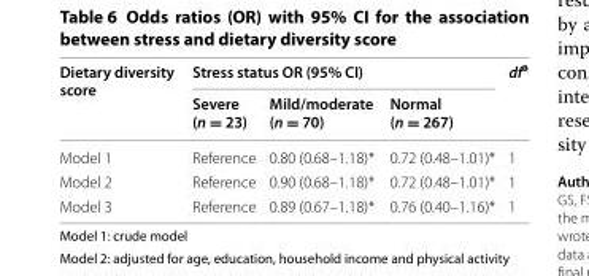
<table><thead><tr><td rowspan="2">Dietary diversity score</td><td colspan="3">Stress status OR (95% CI)</td><td rowspan="2">df<sup>a</sup></td></tr><tr><td>Severe (n = 23)</td><td>Mild/moderate (n = 70)</td><td>Normal (n = 267)</td></tr></thead><tbody><tr><td>Model 1</td><td>Reference</td><td>0.80 (0.68–1.18)*</td><td>0.72 (0.48–1.01)*</td><td>1</td></tr><tr><td>Model 2</td><td>Reference</td><td>0.90 (0.68–1.18)*</td><td>0.72 (0.48–1.01)*</td><td>1</td></tr><tr><td>Model 3</td><td>Reference</td><td>0.89 (0.67–1.18)*</td><td>0.76 (0.40–1.16)*</td><td>1</td></tr></tbody></table>